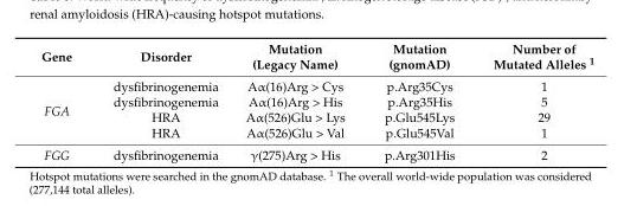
<table><thead><tr><td>Gene</td><td>Disorder</td><td>Mutation (Legacy Name)</td><td>Mutation (gnomAD)</td><td>Number of Mutated Alleles <sup>1</sup></td></tr></thead><tbody><tr><td rowspan="4">FGA</td><td>dysfibrinogenemia</td><td>Aα(16)Arg &gt; Cys</td><td>p.Arg35Cys</td><td>1</td></tr><tr><td>dysfibrinogenemia</td><td>Aα(16)Arg &gt; His</td><td>p.Arg35His</td><td>5</td></tr><tr><td>HRA</td><td>Aα(526)Glu &gt; Lys</td><td>p.Glu545Lys</td><td>29</td></tr><tr><td>HRA</td><td>Aα(526)Glu &gt; Val</td><td>p.Glu545Val</td><td>1</td></tr><tr><td>FGG</td><td>dysfibrinogenemia</td><td>γ(275)Arg &gt; His</td><td>p.Arg301His</td><td>2</td></tr></tbody></table>